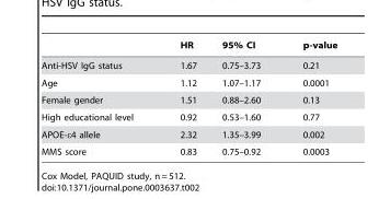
<table><thead><tr><td></td><td>HR</td><td>95% CI</td><td>p-value</td></tr></thead><tbody><tr><td>Anti-HSV IgG status</td><td>1.67</td><td>0.75–3.73</td><td>0.21</td></tr><tr><td>Age</td><td>1.12</td><td>1.07–1.17</td><td>0.0001</td></tr><tr><td>Female gender</td><td>1.51</td><td>0.88–2.60</td><td>0.13</td></tr><tr><td>High educational level</td><td>0.92</td><td>0.53–1.60</td><td>0.77</td></tr><tr><td>APOE-ε4 allele</td><td>2.32</td><td>1.35–3.99</td><td>0.002</td></tr><tr><td>MMS score</td><td>0.83</td><td>0.75–0.92</td><td>0.0003</td></tr></tbody></table>